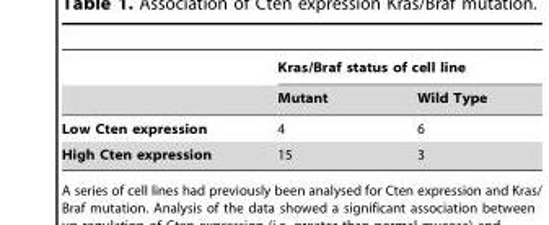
<table><thead><tr><td rowspan="2"></td><td colspan="2">Kras/Braf status of cell line</td></tr><tr><td>Mutant</td><td>Wild Type</td></tr></thead><tbody><tr><td>Low Cten expression</td><td>4</td><td>6</td></tr><tr><td>High Cten expression</td><td>15</td><td>3</td></tr></tbody></table>